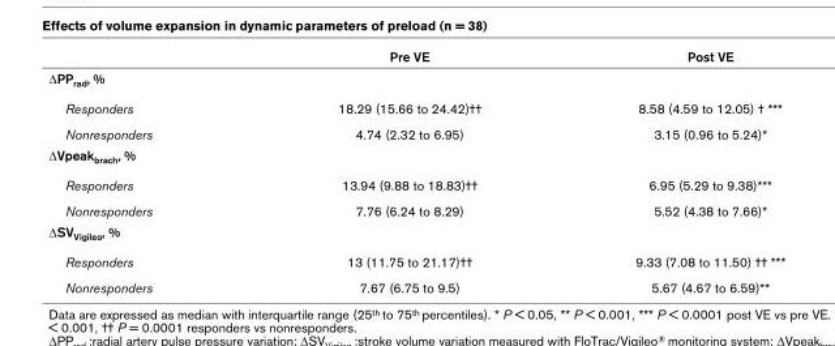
<table><thead><tr><td></td><td>Pre VE</td><td>Post VE</td></tr></thead><tbody><tr><td colspan="3">ΔPP<sub>rad</sub>, %</td></tr><tr><td>Responders</td><td>18.29 (15.66 to 24.42)††</td><td>8.58 (4.59 to 12.05) † ***</td></tr><tr><td>Nonresponders</td><td>4.74 (2.32 to 6.95)</td><td>3.15 (0.96 to 5.24)*</td></tr><tr><td colspan="3">ΔVpeak<sub>brach</sub>, %</td></tr><tr><td>Responders</td><td>13.94 (9.88 to 18.83)††</td><td>6.95 (5.29 to 9.38)***</td></tr><tr><td>Nonresponders</td><td>7.76 (6.24 to 8.29)</td><td>5.52 (4.38 to 7.66)*</td></tr><tr><td colspan="3">ΔSV<sub>Vigileo</sub>, %</td></tr><tr><td>Responders</td><td>13 (11.75 to 21.17)††</td><td>9.33 (7.08 to 11.50) †† ***</td></tr><tr><td>Nonresponders</td><td>7.67 (6.75 to 9.5)</td><td>5.67 (4.67 to 6.59)**</td></tr></tbody></table>